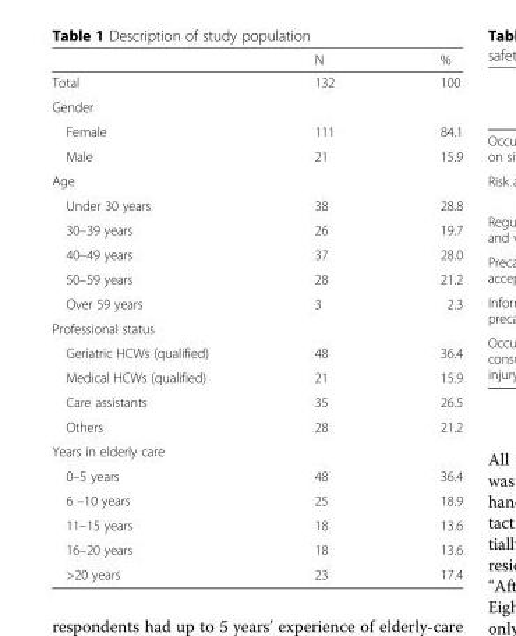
<table><thead><tr><td></td><td>N</td><td>%</td></tr></thead><tbody><tr><td>Total</td><td>132</td><td>100</td></tr><tr><td colspan="3">Gender</td></tr><tr><td>Female</td><td>111</td><td>84.1</td></tr><tr><td>Male</td><td>21</td><td>15.9</td></tr><tr><td colspan="3">Age</td></tr><tr><td>Under 30 years</td><td>38</td><td>28.8</td></tr><tr><td>30–39 years</td><td>26</td><td>19.7</td></tr><tr><td>40–49 years</td><td>37</td><td>28.0</td></tr><tr><td>50–59 years</td><td>28</td><td>21.2</td></tr><tr><td>Over 59 years</td><td>3</td><td>2.3</td></tr><tr><td colspan="3">Professional status</td></tr><tr><td>Geriatric HCWs (qualified)</td><td>48</td><td>36.4</td></tr><tr><td>Medical HCWs (qualified)</td><td>21</td><td>15.9</td></tr><tr><td>Care assistants</td><td>35</td><td>26.5</td></tr><tr><td>Others</td><td>28</td><td>21.2</td></tr><tr><td colspan="3">Years in elderly care</td></tr><tr><td>0–5 years</td><td>48</td><td>36.4</td></tr><tr><td>6 –10 years</td><td>25</td><td>18.9</td></tr><tr><td>11–15 years</td><td>18</td><td>13.6</td></tr><tr><td>16–20 years</td><td>18</td><td>13.6</td></tr><tr><td>&gt;20 years</td><td>23</td><td>17.4</td></tr></tbody></table>